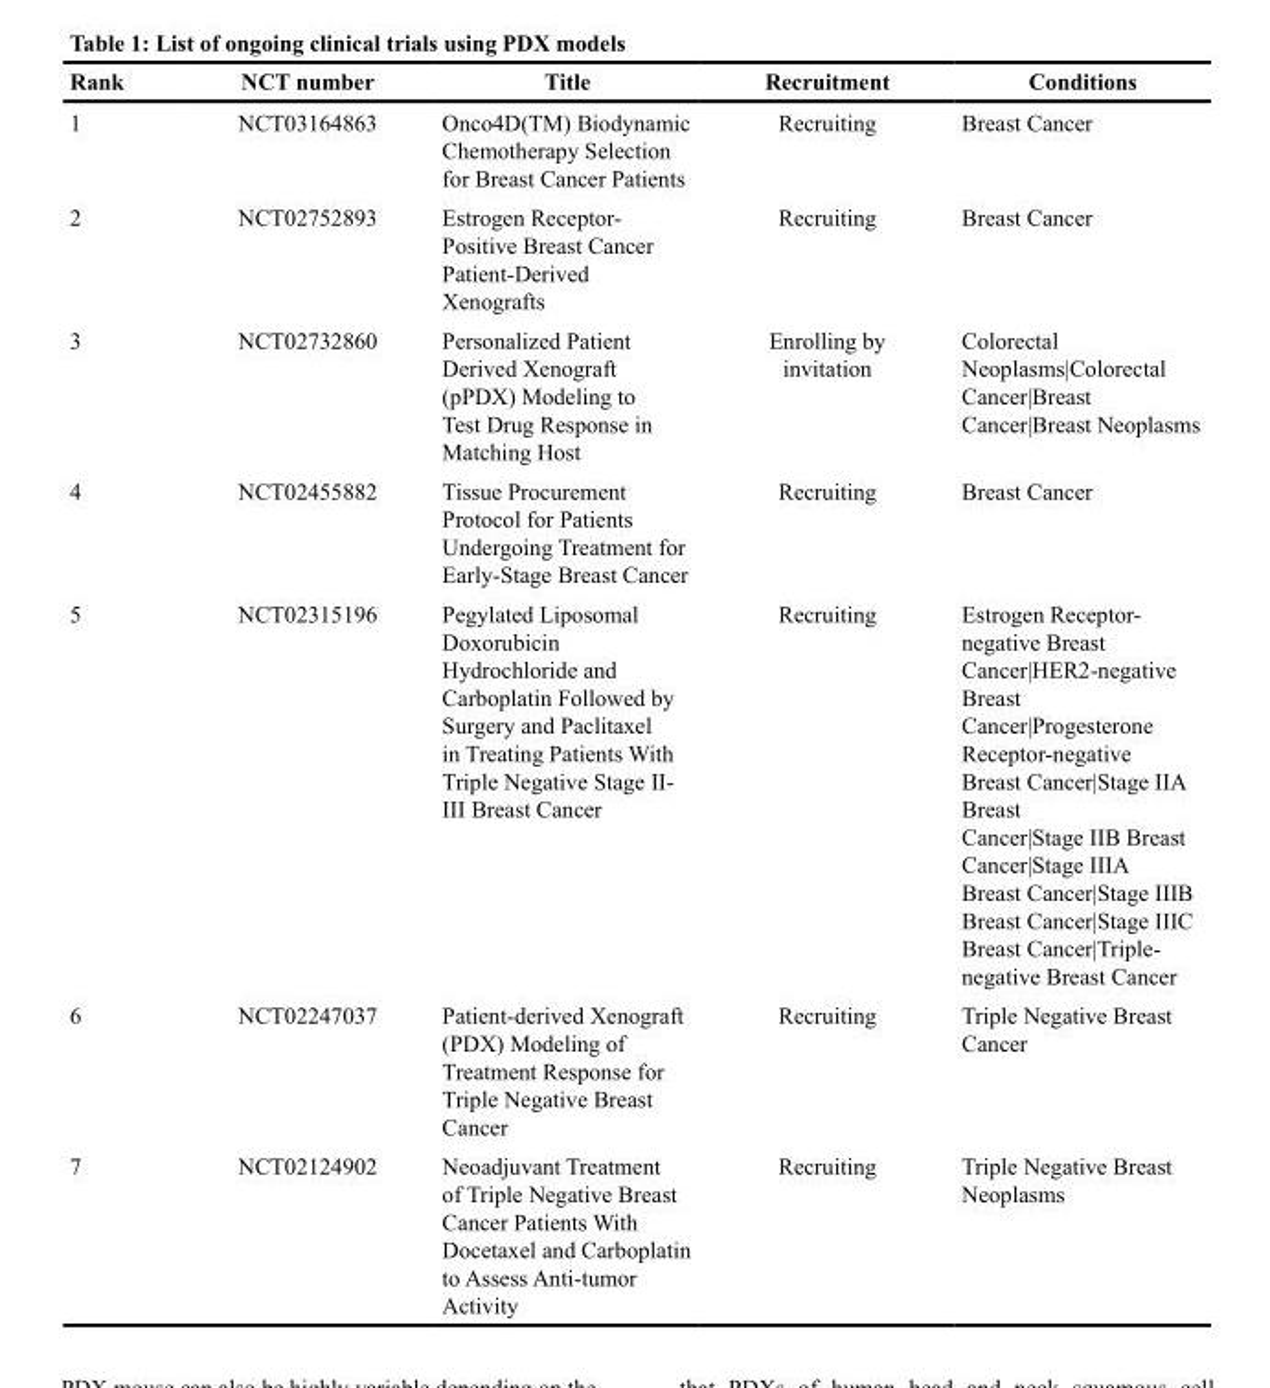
<table><thead><tr><td>Rank</td><td>NCT number</td><td>Title</td><td>Recruitment</td><td>Conditions</td></tr></thead><tbody><tr><td>1</td><td>NCT03164863</td><td>Onco4D(TM) Biodynamic Chemotherapy Selection for Breast Cancer Patients</td><td>Recruiting</td><td>Breast Cancer</td></tr><tr><td>2</td><td>NCT02752893</td><td>Estrogen Receptor- Positive Breast Cancer Patient-Derived Xenografts</td><td>Recruiting</td><td>Breast Cancer</td></tr><tr><td>3</td><td>NCT02732860</td><td>Personalized Patient Derived Xenograft (pPDX) Modeling to Test Drug Response in Matching Host</td><td>Enrolling by invitation</td><td>Colorectal Neoplasms|Colorectal Cancer|Breast Cancer|Breast Neoplasms</td></tr><tr><td>4</td><td>NCT02455882</td><td>Tissue Procurement Protocol for Patients Undergoing Treatment for Early-Stage Breast Cancer</td><td>Recruiting</td><td>Breast Cancer</td></tr><tr><td>5</td><td>NCT02315196</td><td>Pegylated Liposomal Doxorubicin Hydrochloride and Carboplatin Followed by Surgery and Paclitaxel in Treating Patients With Triple Negative Stage II- III Breast Cancer</td><td>Recruiting</td><td>Estrogen Receptor- negative Breast Cancer|HER2-negative Breast Cancer|Progesterone Receptor-negative Breast Cancer|Stage IIA Breast Cancer|Stage IIB Breast Cancer|Stage IIIA Breast Cancer|Stage IIIB Breast Cancer|Stage IIIC Breast Cancer|Triple- negative Breast Cancer</td></tr><tr><td>6</td><td>NCT02247037</td><td>Patient-derived Xenograft (PDX) Modeling of Treatment Response for Triple Negative Breast Cancer</td><td>Recruiting</td><td>Triple Negative Breast Cancer</td></tr><tr><td>7</td><td>NCT02124902</td><td>Neoadjuvant Treatment of Triple Negative Breast Cancer Patients With Docetaxel and Carboplatin to Assess Anti-tumor Activity</td><td>Recruiting</td><td>Triple Negative Breast Neoplasms</td></tr></tbody></table>